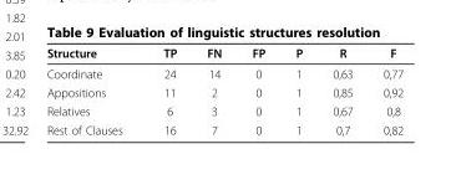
<table><thead><tr><td>Structure</td><td>TP</td><td>FN</td><td>FP</td><td>P</td><td>R</td><td>F</td></tr></thead><tbody><tr><td>Coordinate</td><td>24</td><td>14</td><td>0</td><td>1</td><td>0,63</td><td>0,77</td></tr><tr><td>Appositions</td><td>11</td><td>2</td><td>0</td><td>1</td><td>0,85</td><td>0,92</td></tr><tr><td>Relatives</td><td>6</td><td>3</td><td>0</td><td>1</td><td>0,67</td><td>0,8</td></tr><tr><td>Rest of Clauses</td><td>16</td><td>7</td><td>0</td><td>1</td><td>0,7</td><td>0,82</td></tr></tbody></table>